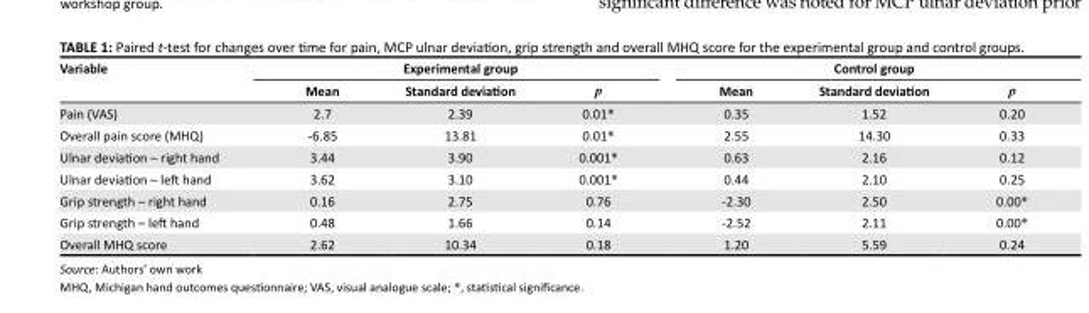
<table><thead><tr><td rowspan="2">Variable</td><td colspan="3">Experimental group</td><td colspan="3">Control group</td></tr><tr><td>Mean</td><td>Standard deviation</td><td>p</td><td>Mean</td><td>Standard deviation</td><td>p</td></tr></thead><tbody><tr><td>Pain (VAS)</td><td>2.7</td><td>2.39</td><td>0.01*</td><td>0.35</td><td>1.52</td><td>0.20</td></tr><tr><td>Overall pain score (MHQ)</td><td>-6.85</td><td>13.81</td><td>0.01*</td><td>2.55</td><td>14.30</td><td>0.33</td></tr><tr><td>Ulnar deviation – right hand</td><td>3.44</td><td>3.90</td><td>0.001*</td><td>0.63</td><td>2.16</td><td>0.12</td></tr><tr><td>Ulnar deviation – left hand</td><td>3.62</td><td>3.10</td><td>0.001*</td><td>0.44</td><td>2.10</td><td>0.25</td></tr><tr><td>Grip strength – right hand</td><td>0.16</td><td>2.75</td><td>0.76</td><td>-2.30</td><td>2.50</td><td>0.00*</td></tr><tr><td>Grip strength – left hand</td><td>0.48</td><td>1.66</td><td>0.14</td><td>-2.52</td><td>2.11</td><td>0.00*</td></tr><tr><td>Overall MHQ score</td><td>2.62</td><td>10.34</td><td>0.18</td><td>1.20</td><td>5.59</td><td>0.24</td></tr></tbody></table>